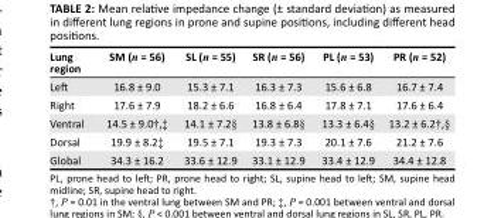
<table><thead><tr><td>Lung region</td><td>SM (n = 56)</td><td>SL (n = 55)</td><td>SR (n = 56)</td><td>PL (n = 53)</td><td>PR (n = 52)</td></tr></thead><tbody><tr><td>Left</td><td>16.8 ± 9.0</td><td>15.3 ± 7.1</td><td>16.3 ± 7.3</td><td>15.6 ± 6.8</td><td>16.7 ± 7.4</td></tr><tr><td>Right</td><td>17.6 ± 7.9</td><td>18.2 ± 6.6</td><td>16.8 ± 6.4</td><td>17.8 ± 7.1</td><td>17.6 ± 6.4</td></tr><tr><td>Ventral</td><td>14.5 ± 9.0†,‡</td><td>14.1 ± 7.2§</td><td>13.8 ± 6.8§</td><td>13.3 ± 6.4§</td><td>13.2 ± 6.2†,§</td></tr><tr><td>Dorsal</td><td>19.9 ± 8.2‡</td><td>19.5 ± 7.1</td><td>19.3 ± 7.3</td><td>20.1 ± 7.6</td><td>21.2 ± 7.6</td></tr><tr><td>Global</td><td>34.3 ± 16.2</td><td>33.6 ± 12.9</td><td>33.1 ± 12.9</td><td>33.4 ± 12.9</td><td>34.4 ± 12.8</td></tr></tbody></table>